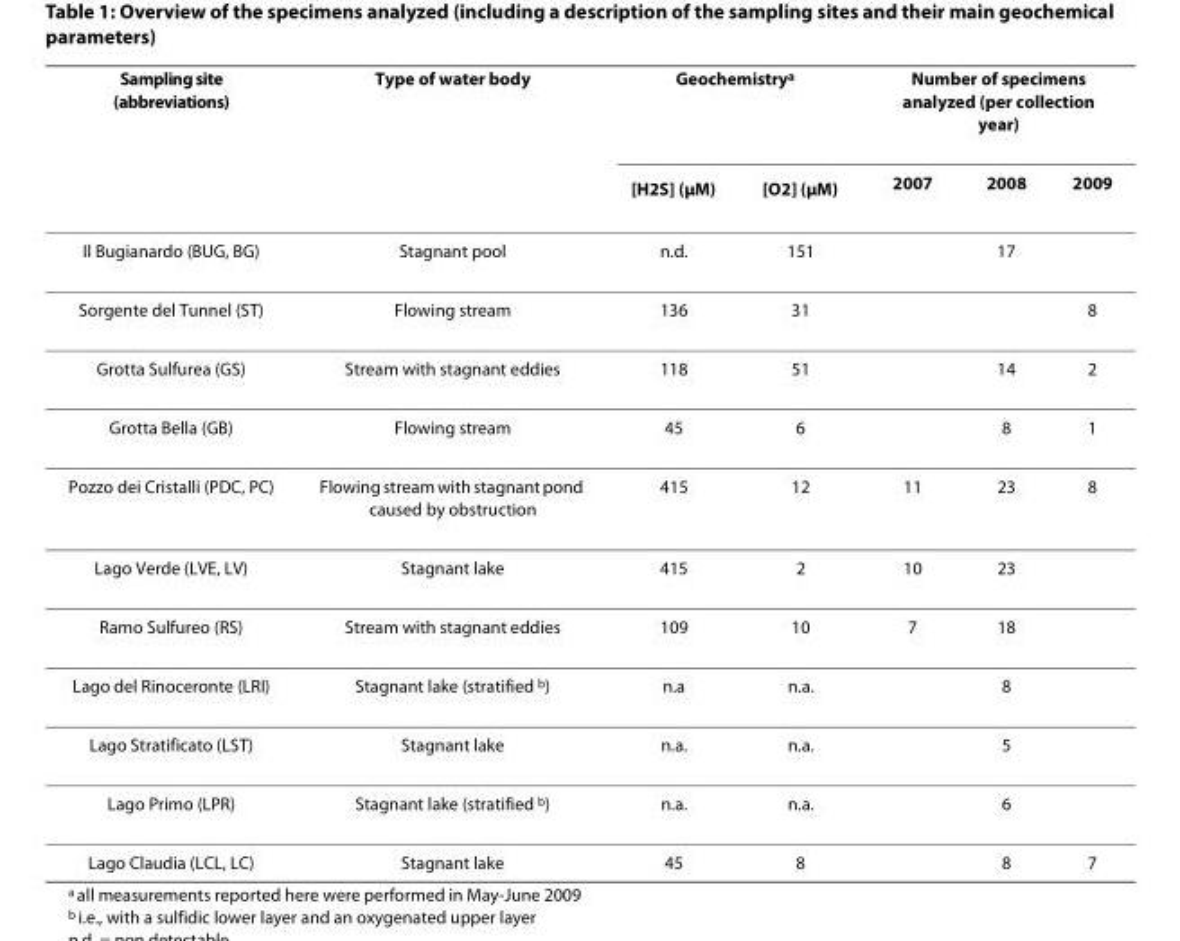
<table><thead><tr><td rowspan="2">Sampling site (abbreviations)</td><td rowspan="2">Type of water body</td><td colspan="2">Geochemistry<sup>a</sup></td><td colspan="3">Number of specimens analyzed (per collection year)</td></tr><tr><td>[H<sub>2</sub>S] (μM)</td><td>[O<sub>2</sub>] (μM)</td><td>2007</td><td>2008</td><td>2009</td></tr></thead><tbody><tr><td>Il Bugianardo (BUG, BG)</td><td>Stagnant pool</td><td>n.d.</td><td>151</td><td></td><td>17</td><td></td></tr><tr><td>Sorgente del Tunnel (ST)</td><td>Flowing stream</td><td>136</td><td>31</td><td></td><td></td><td>8</td></tr><tr><td>Grotta Sulfurea (GS)</td><td>Stream with stagnant eddies</td><td>118</td><td>51</td><td></td><td>14</td><td>2</td></tr><tr><td>Grotta Bella (GB)</td><td>Flowing stream</td><td>45</td><td>6</td><td></td><td>8</td><td>1</td></tr><tr><td>Pozzo dei Cristalli (PDC, PC)</td><td>Flowing stream with stagnant pond caused by obstruction</td><td>415</td><td>12</td><td>11</td><td>23</td><td>8</td></tr><tr><td>Lago Verde (LVE, LV)</td><td>Stagnant lake</td><td>415</td><td>2</td><td>10</td><td>23</td><td></td></tr><tr><td>Ramo Sulfureo (RS)</td><td>Stream with stagnant eddies</td><td>109</td><td>10</td><td>7</td><td>18</td><td></td></tr><tr><td>Lago del Rinoceronte (LRI)</td><td>Stagnant lake (stratified <sup>b</sup>)</td><td>n.a</td><td>n.a.</td><td></td><td>8</td><td></td></tr><tr><td>Lago Stratificato (LST)</td><td>Stagnant lake</td><td>n.a.</td><td>n.a.</td><td></td><td>5</td><td></td></tr><tr><td>Lago Primo (LPR)</td><td>Stagnant lake (stratified <sup>b</sup>)</td><td>n.a.</td><td>n.a.</td><td></td><td>6</td><td></td></tr><tr><td>Lago Claudia (LCL, LC)</td><td>Stagnant lake</td><td>45</td><td>8</td><td></td><td>8</td><td>7</td></tr></tbody></table>